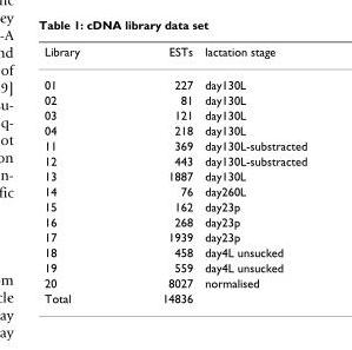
<table><thead><tr><td>Library</td><td>ESTs</td><td>lactation stage</td></tr></thead><tbody><tr><td>01</td><td>227</td><td>day130L</td></tr><tr><td>02</td><td>81</td><td>day130L</td></tr><tr><td>03</td><td>121</td><td>day130L</td></tr><tr><td>04</td><td>218</td><td>day130L</td></tr><tr><td>11</td><td>369</td><td>day130L-substracted</td></tr><tr><td>12</td><td>443</td><td>day130L-substracted</td></tr><tr><td>13</td><td>1887</td><td>day130L</td></tr><tr><td>14</td><td>76</td><td>day260L</td></tr><tr><td>15</td><td>162</td><td>day23p</td></tr><tr><td>16</td><td>268</td><td>day23p</td></tr><tr><td>17</td><td>1939</td><td>day23p</td></tr><tr><td>18</td><td>458</td><td>day4L unsucked</td></tr><tr><td>19</td><td>559</td><td>day4L unsucked</td></tr><tr><td>20</td><td>8027</td><td>normalised</td></tr><tr><td>Total</td><td>14836</td><td></td></tr></tbody></table>